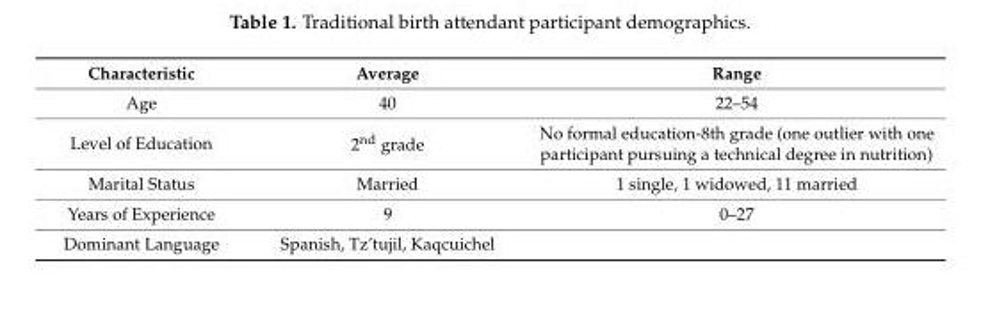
<table><thead><tr><td>Characteristic</td><td>Average</td><td>Range</td></tr></thead><tbody><tr><td>Age</td><td>40</td><td>22–54</td></tr><tr><td>Level of Education</td><td>2<sup>nd</sup> grade</td><td>No formal education-8th grade (one outlier with one participant pursuing a technical degree in nutrition)</td></tr><tr><td>Marital Status</td><td>Married</td><td>1 single, 1 widowed, 11 married</td></tr><tr><td>Years of Experience</td><td>9</td><td>0–27</td></tr><tr><td>Dominant Language</td><td>Spanish, Tz’tujil, Kaqcuichel</td><td></td></tr></tbody></table>